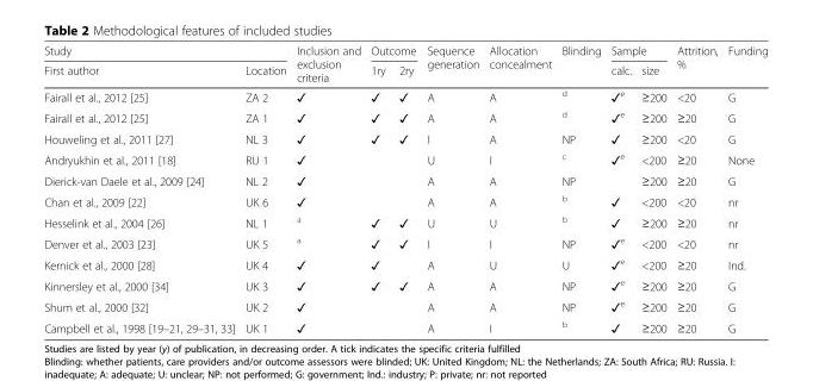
<table><thead><tr><td colspan="2">Study</td><td rowspan="2">Inclusion and exclusion criteria</td><td colspan="2">Outcome</td><td rowspan="2">Sequence generation</td><td rowspan="2">Allocation concealment</td><td rowspan="2">Blinding</td><td colspan="2">Sample</td><td rowspan="2">Attrition, %</td><td rowspan="2">Funding</td></tr><tr><td>First author</td><td>Location</td><td>1ry</td><td>2ry</td><td>calc.</td><td>size</td></tr></thead><tbody><tr><td>Fairall et al., 2012 [25]</td><td>ZA 2</td><td>✓</td><td>✓</td><td>✓</td><td>A</td><td>A</td><td><sup>d</sup></td><td>✓<sup>e</sup></td><td>≥200</td><td>&lt;20</td><td>G</td></tr><tr><td>Fairall et al., 2012 [25]</td><td>ZA 1</td><td>✓</td><td>✓</td><td>✓</td><td>A</td><td>A</td><td><sup>d</sup></td><td>✓<sup>e</sup></td><td>≥200</td><td>≥20</td><td>G</td></tr><tr><td>Houweling et al., 2011 [27]</td><td>NL 3</td><td>✓</td><td>✓</td><td>✓</td><td>I</td><td>A</td><td>NP</td><td>✓</td><td>≥200</td><td>&lt;20</td><td>G</td></tr><tr><td>Andryukhin et al., 2011 [18]</td><td>RU 1</td><td>✓</td><td></td><td></td><td>U</td><td>I</td><td><sup>c</sup></td><td>✓<sup>e</sup></td><td>&lt;200</td><td>≥20</td><td>None</td></tr><tr><td>Dierick-van Daele et al., 2009 [24]</td><td>NL 2</td><td>✓</td><td></td><td></td><td>A</td><td>A</td><td>NP</td><td></td><td>≥200</td><td>≥20</td><td>G</td></tr><tr><td>Chan et al., 2009 [22]</td><td>UK 6</td><td>✓</td><td></td><td></td><td>A</td><td>A</td><td><sup>b</sup></td><td>✓</td><td>&lt;200</td><td>&lt;20</td><td>nr</td></tr><tr><td>Hesselink et al., 2004 [26]</td><td>NL 1</td><td><sup>a</sup></td><td>✓</td><td>✓</td><td>U</td><td>U</td><td><sup>b</sup></td><td>✓</td><td>≥200</td><td>≥20</td><td>nr</td></tr><tr><td>Denver et al., 2003 [23]</td><td>UK 5</td><td><sup>a</sup></td><td>✓</td><td>✓</td><td>I</td><td>I</td><td>NP</td><td>✓<sup>e</sup></td><td>&lt;200</td><td>&lt;20</td><td>nr</td></tr><tr><td>Kernick et al., 2000 [28]</td><td>UK 4</td><td>✓</td><td>✓</td><td></td><td>A</td><td>U</td><td>U</td><td>✓<sup>e</sup></td><td>&lt;200</td><td>≥20</td><td>Ind.</td></tr><tr><td>Kinnersley et al., 2000 [34]</td><td>UK 3</td><td>✓</td><td>✓</td><td>✓</td><td>A</td><td>A</td><td>NP</td><td>✓<sup>e</sup></td><td>≥200</td><td>≥20</td><td>G</td></tr><tr><td>Shum et al., 2000 [32]</td><td>UK 2</td><td>✓</td><td></td><td></td><td>A</td><td>A</td><td>NP</td><td>✓<sup>e</sup></td><td>≥200</td><td>≥20</td><td>G</td></tr><tr><td>Campbell et al., 1998 [19–21, 29–31, 33]</td><td>UK 1</td><td>✓</td><td></td><td></td><td>A</td><td>I</td><td><sup>b</sup></td><td>✓</td><td>≥200</td><td>≥20</td><td>G</td></tr></tbody></table>